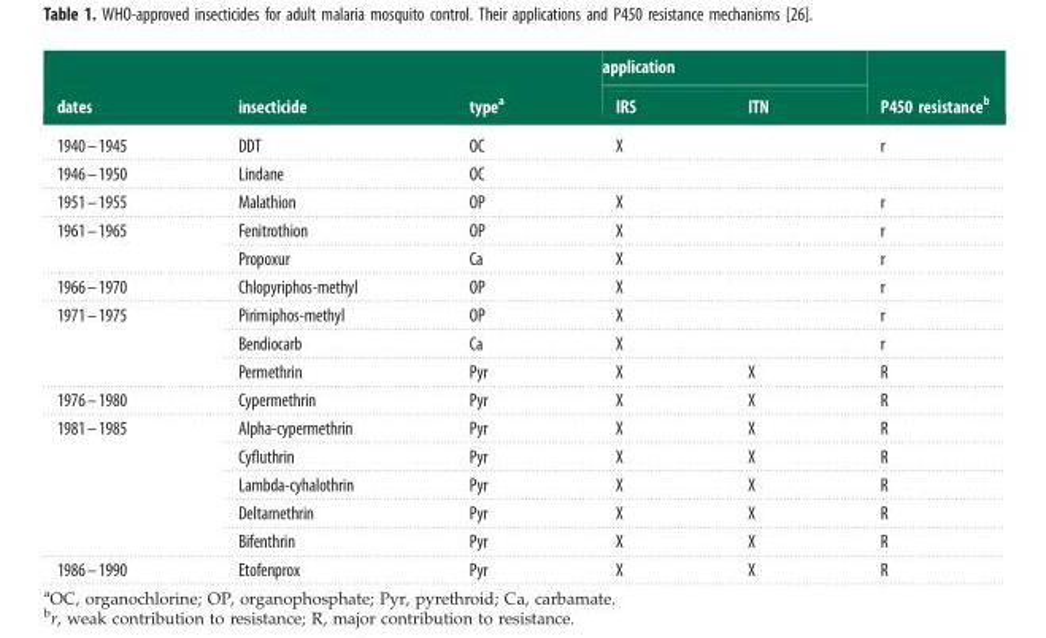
<table><thead><tr><td rowspan="2">dates</td><td rowspan="2">insecticide</td><td rowspan="2">type<sup>a</sup></td><td colspan="2">application</td><td rowspan="2">P450 resistance<sup>b</sup></td></tr><tr><td>IRS</td><td>ITN</td></tr></thead><tbody><tr><td>1940–1945</td><td>DDT</td><td>OC</td><td>X</td><td></td><td>r</td></tr><tr><td>1946–1950</td><td>Lindane</td><td>OC</td><td></td><td></td><td></td></tr><tr><td>1951–1955</td><td>Malathion</td><td>OP</td><td>X</td><td></td><td>r</td></tr><tr><td rowspan="2">1961–1965</td><td>Fenitrothion</td><td>OP</td><td>X</td><td></td><td>r</td></tr><tr><td>Propoxur</td><td>Ca</td><td>X</td><td></td><td>r</td></tr><tr><td>1966–1970</td><td>Chlopyriphos-methyl</td><td>OP</td><td>X</td><td></td><td>r</td></tr><tr><td rowspan="3">1971–1975</td><td>Pirimiphos-methyl</td><td>OP</td><td>X</td><td></td><td>r</td></tr><tr><td>Bendiocarb</td><td>Ca</td><td>X</td><td></td><td>r</td></tr><tr><td>Permethrin</td><td>Pyr</td><td>X</td><td>X</td><td>R</td></tr><tr><td>1976–1980</td><td>Cypermethrin</td><td>Pyr</td><td>X</td><td>X</td><td>R</td></tr><tr><td rowspan="5">1981–1985</td><td>Alpha-cypermethrin</td><td>Pyr</td><td>X</td><td>X</td><td>R</td></tr><tr><td>Cyfluthrin</td><td>Pyr</td><td>X</td><td>X</td><td>R</td></tr><tr><td>Lambda-cyhalothrin</td><td>Pyr</td><td>X</td><td>X</td><td>R</td></tr><tr><td>Deltamethrin</td><td>Pyr</td><td>X</td><td>X</td><td>R</td></tr><tr><td>Bifenthrin</td><td>Pyr</td><td>X</td><td>X</td><td>R</td></tr><tr><td>1986–1990</td><td>Etofenprox</td><td>Pyr</td><td>X</td><td>X</td><td>R</td></tr></tbody></table>